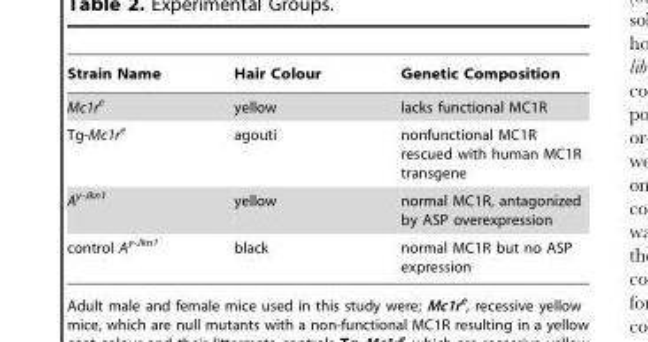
<table><thead><tr><td>Strain Name</td><td>Hair Colour</td><td>Genetic Composition</td></tr></thead><tbody><tr><td>Mc1r<sup>e</sup></td><td>yellow</td><td>lacks functional MC1R</td></tr><tr><td>Tg-Mc1r<sup>e</sup></td><td>agouti</td><td>nonfunctional MC1R rescued with human MC1R transgene</td></tr><tr><td>A<sup>y-Jkn1</sup></td><td>yellow</td><td>normal MC1R, antagonized by ASP overexpression</td></tr><tr><td>control A<sup>y-Jkn1</sup></td><td>black</td><td>normal MC1R but no ASP expression</td></tr></tbody></table>